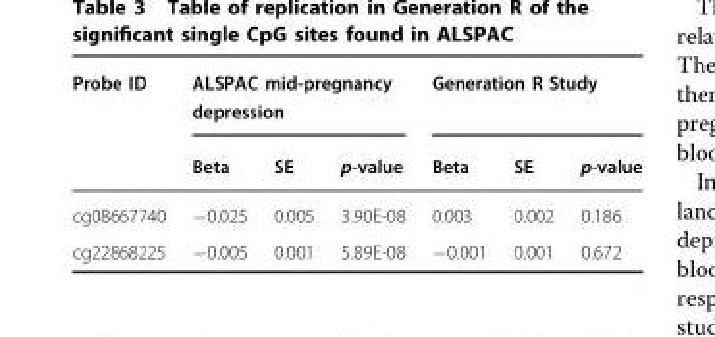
<table><thead><tr><td rowspan="2">Probe ID</td><td colspan="3">ALSPAC mid-pregnancy depression</td><td colspan="3">Generation R Study</td></tr><tr><td>Beta</td><td>SE</td><td>p-value</td><td>Beta</td><td>SE</td><td>p-value</td></tr></thead><tbody><tr><td>cg08667740</td><td>−0.025</td><td>0.005</td><td>3.90E-08</td><td>0.003</td><td>0.002</td><td>0.186</td></tr><tr><td>cg22868225</td><td>−0.005</td><td>0.001</td><td>5.89E-08</td><td>−0.001</td><td>0.001</td><td>0.672</td></tr></tbody></table>